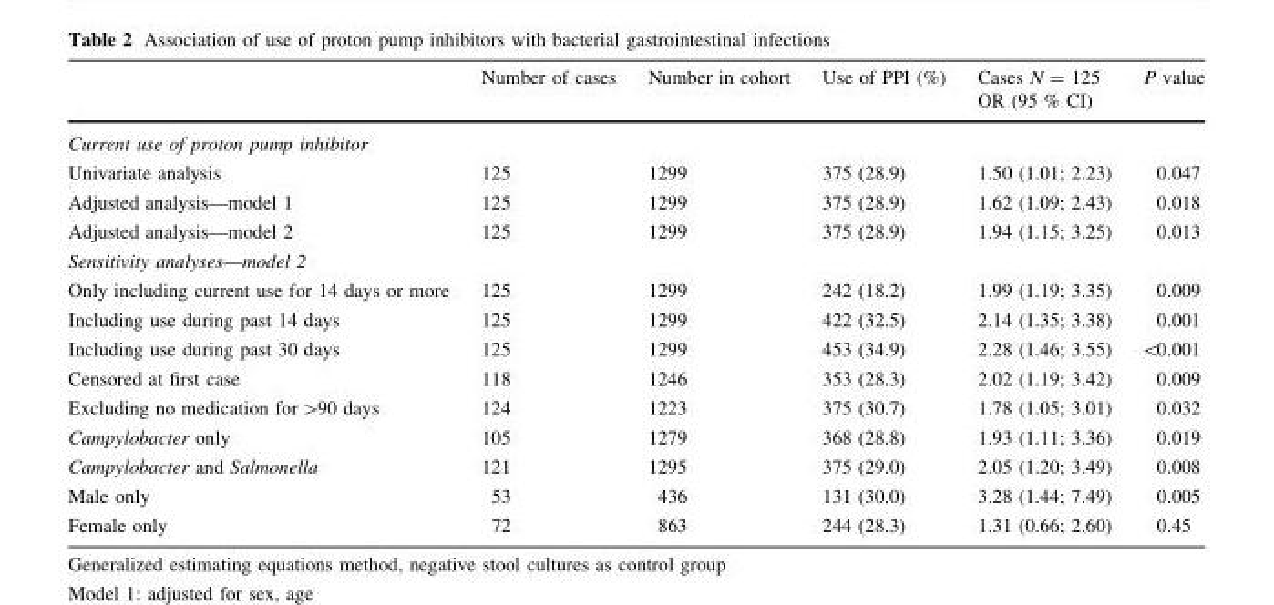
<table><thead><tr><td></td><td>Number of cases</td><td>Number in cohort</td><td>Use of PPI (%)</td><td>Cases N = 125 OR (95 % CI)</td><td>P value</td></tr></thead><tbody><tr><td colspan="6">Current use of proton pump inhibitor</td></tr><tr><td>Univariate analysis</td><td>125</td><td>1299</td><td>375 (28.9)</td><td>1.50 (1.01; 2.23)</td><td>0.047</td></tr><tr><td>Adjusted analysis—model 1</td><td>125</td><td>1299</td><td>375 (28.9)</td><td>1.62 (1.09; 2.43)</td><td>0.018</td></tr><tr><td>Adjusted analysis—model 2</td><td>125</td><td>1299</td><td>375 (28.9)</td><td>1.94 (1.15; 3.25)</td><td>0.013</td></tr><tr><td colspan="6">Sensitivity analyses—model 2</td></tr><tr><td>Only including current use for 14 days or more</td><td>125</td><td>1299</td><td>242 (18.2)</td><td>1.99 (1.19; 3.35)</td><td>0.009</td></tr><tr><td>Including use during past 14 days</td><td>125</td><td>1299</td><td>422 (32.5)</td><td>2.14 (1.35; 3.38)</td><td>0.001</td></tr><tr><td>Including use during past 30 days</td><td>125</td><td>1299</td><td>453 (34.9)</td><td>2.28 (1.46; 3.55)</td><td>&lt;0.001</td></tr><tr><td>Censored at first case</td><td>118</td><td>1246</td><td>353 (28.3)</td><td>2.02 (1.19; 3.42)</td><td>0.009</td></tr><tr><td>Excluding no medication for &gt;90 days</td><td>124</td><td>1223</td><td>375 (30.7)</td><td>1.78 (1.05; 3.01)</td><td>0.032</td></tr><tr><td>Campylobacter only</td><td>105</td><td>1279</td><td>368 (28.8)</td><td>1.93 (1.11; 3.36)</td><td>0.019</td></tr><tr><td>Campylobacter and Salmonella</td><td>121</td><td>1295</td><td>375 (29.0)</td><td>2.05 (1.20; 3.49)</td><td>0.008</td></tr><tr><td>Male only</td><td>53</td><td>436</td><td>131 (30.0)</td><td>3.28 (1.44; 7.49)</td><td>0.005</td></tr><tr><td>Female only</td><td>72</td><td>863</td><td>244 (28.3)</td><td>1.31 (0.66; 2.60)</td><td>0.45</td></tr></tbody></table>